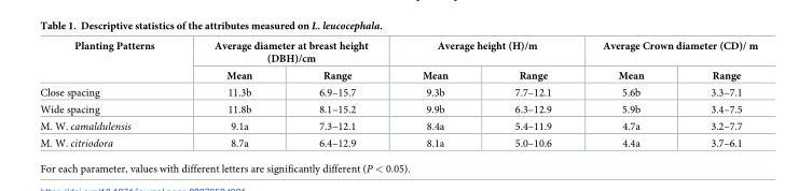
<table><thead><tr><td rowspan="2">Planting Patterns</td><td colspan="2">Average diameter at breast height (DBH)/cm</td><td colspan="2">Average height (H)/m</td><td colspan="2">Average Crown diameter (CD)/ m</td></tr><tr><td>Mean</td><td>Range</td><td>Mean</td><td>Range</td><td>Mean</td><td>Range</td></tr></thead><tbody><tr><td>Close spacing</td><td>11.3b</td><td>6.9–15.7</td><td>9.3b</td><td>7.7–12.1</td><td>5.6b</td><td>3.3–7.1</td></tr><tr><td>Wide spacing</td><td>11.8b</td><td>8.1–15.2</td><td>9.9b</td><td>6.3–12.9</td><td>5.9b</td><td>3.4–7.5</td></tr><tr><td>M. W. camaldulensis</td><td>9.1a</td><td>7.3–12.1</td><td>8.4a</td><td>5.4–11.9</td><td>4.7a</td><td>3.2–7.7</td></tr><tr><td>M. W. citriodora</td><td>8.7a</td><td>6.4–12.9</td><td>8.1a</td><td>5.0–10.6</td><td>4.4a</td><td>3.7–6.1</td></tr></tbody></table>